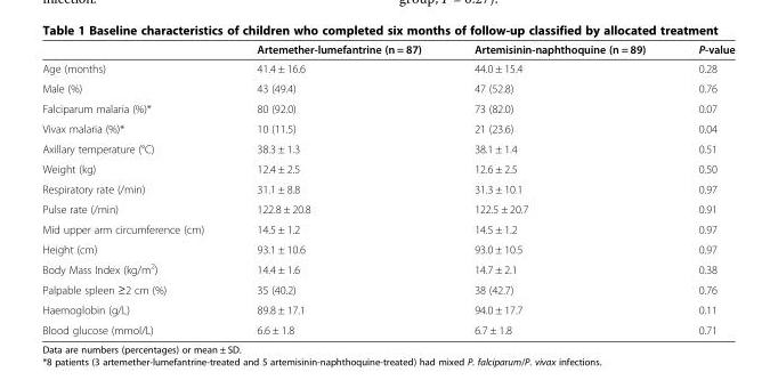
<table><thead><tr><td></td><td>Artemether-lumefantrine (n = 87)</td><td>Artemisinin-naphthoquine (n = 89)</td><td>P-value</td></tr></thead><tbody><tr><td>Age (months)</td><td>41.4 ± 16.6</td><td>44.0 ± 15.4</td><td>0.28</td></tr><tr><td>Male (%)</td><td>43 (49.4)</td><td>47 (52.8)</td><td>0.76</td></tr><tr><td>Falciparum malaria (%)*</td><td>80 (92.0)</td><td>73 (82.0)</td><td>0.07</td></tr><tr><td>Vivax malaria (%)*</td><td>10 (11.5)</td><td>21 (23.6)</td><td>0.04</td></tr><tr><td>Axillary temperature (°C)</td><td>38.3 ± 1.3</td><td>38.1 ± 1.4</td><td>0.51</td></tr><tr><td>Weight (kg)</td><td>12.4 ± 2.5</td><td>12.6 ± 2.5</td><td>0.50</td></tr><tr><td>Respiratory rate (/min)</td><td>31.1 ± 8.8</td><td>31.3 ± 10.1</td><td>0.97</td></tr><tr><td>Pulse rate (/min)</td><td>122.8 ± 20.8</td><td>122.5 ± 20.7</td><td>0.91</td></tr><tr><td>Mid upper arm circumference (cm)</td><td>14.5 ± 1.2</td><td>14.5 ± 1.2</td><td>0.97</td></tr><tr><td>Height (cm)</td><td>93.1 ± 10.6</td><td>93.0 ± 10.5</td><td>0.97</td></tr><tr><td>Body Mass Index (kg/m<sup>2</sup>)</td><td>14.4 ± 1.6</td><td>14.7 ± 2.1</td><td>0.38</td></tr><tr><td>Palpable spleen ≥2 cm (%)</td><td>35 (40.2)</td><td>38 (42.7)</td><td>0.76</td></tr><tr><td>Haemoglobin (g/L)</td><td>89.8 ± 17.1</td><td>94.0 ± 17.7</td><td>0.11</td></tr><tr><td>Blood glucose (mmol/L)</td><td>6.6 ± 1.8</td><td>6.7 ± 1.8</td><td>0.71</td></tr></tbody></table>